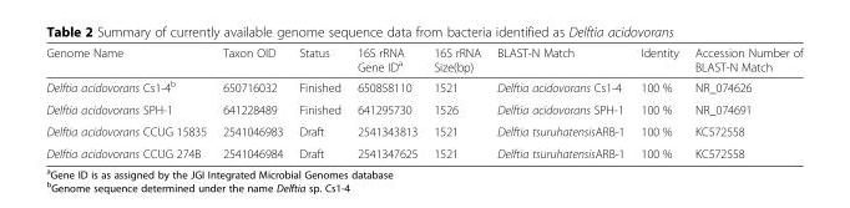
<table><thead><tr><td>Genome Name</td><td>Taxon OID</td><td>Status</td><td>16S rRNA Gene ID<sup>a</sup></td><td>16S rRNA Size(bp)</td><td>BLAST-N Match</td><td>Identity</td><td>Accession Number of BLAST-N Match</td></tr></thead><tbody><tr><td>Delftia acidovorans Cs1-4<sup>b</sup></td><td>650716032</td><td>Finished</td><td>650858110</td><td>1521</td><td>Delftia acidovorans Cs1-4</td><td>100 %</td><td>NR_074626</td></tr><tr><td>Delftia acidovorans SPH-1</td><td>641228489</td><td>Finished</td><td>641295730</td><td>1526</td><td>Delftia acidovorans SPH-1</td><td>100 %</td><td>NR_074691</td></tr><tr><td>Delftia acidovorans CCUG 15835</td><td>2541046983</td><td>Draft</td><td>2541343813</td><td>1521</td><td>Delftia tsuruhatensisARB-1</td><td>100 %</td><td>KC572558</td></tr><tr><td>Delftia acidovorans CCUG 274B</td><td>2541046984</td><td>Draft</td><td>2541347625</td><td>1521</td><td>Delftia tsuruhatensisARB-1</td><td>100 %</td><td>KC572558</td></tr></tbody></table>